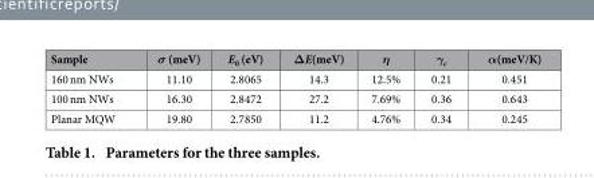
<table><thead><tr><td>Sample</td><td>σ (meV)</td><td>E<sub>0</sub> (eV)</td><td>ΔE(meV)</td><td>η</td><td>γ<sub>c</sub></td><td>α(meV/K)</td></tr></thead><tbody><tr><td>160 nm NWs</td><td>11.10</td><td>2.8065</td><td>14.3</td><td>12.5%</td><td>0.21</td><td>0.451</td></tr><tr><td>100 nm NWs</td><td>16.30</td><td>2.8472</td><td>27.2</td><td>7.69%</td><td>0.36</td><td>0.643</td></tr><tr><td>Planar MQW</td><td>19.80</td><td>2.7850</td><td>11.2</td><td>4.76%</td><td>0.34</td><td>0.245</td></tr></tbody></table>